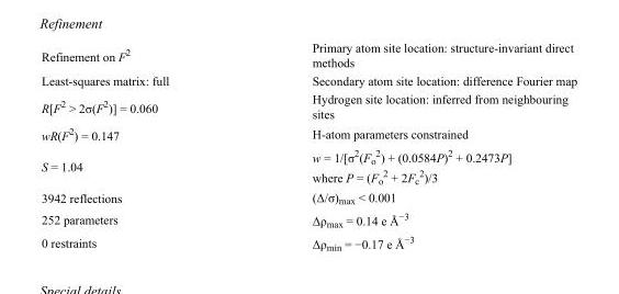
<table><tbody><tr><td>Refinement on F<sup>2</sup></td><td>Primary atom site location: structure-invariant direct methods</td></tr><tr><td>Least-squares matrix: full</td><td>Secondary atom site location: difference Fourier map</td></tr><tr><td>R[F<sup>2</sup> &gt; 2σ(F<sup>2</sup>)] = 0.060</td><td>Hydrogen site location: inferred from neighbouring sites</td></tr><tr><td>wR(F<sup>2</sup>) = 0.147</td><td>H-atom parameters constrained</td></tr><tr><td>S = 1.04</td><td>w = 1/[σ<sup>2</sup>(F<sub>o</sub> <sup>2</sup>) + (0.0584P)<sup>2</sup> + 0.2473P] where P = (F<sub>o</sub> <sup>2</sup> + 2F<sub>c</sub> <sup>2</sup>)/3</td></tr><tr><td>3942 reflections</td><td>(Δ/σ)<sub>max</sub> &lt; 0.001</td></tr><tr><td>252 parameters</td><td>Δρ<sub>max</sub> = 0.14 e Å<sup>−3</sup></td></tr><tr><td>0 restraints</td><td>Δρ<sub>min</sub> = −0.17 e Å<sup>−3</sup></td></tr></tbody></table>